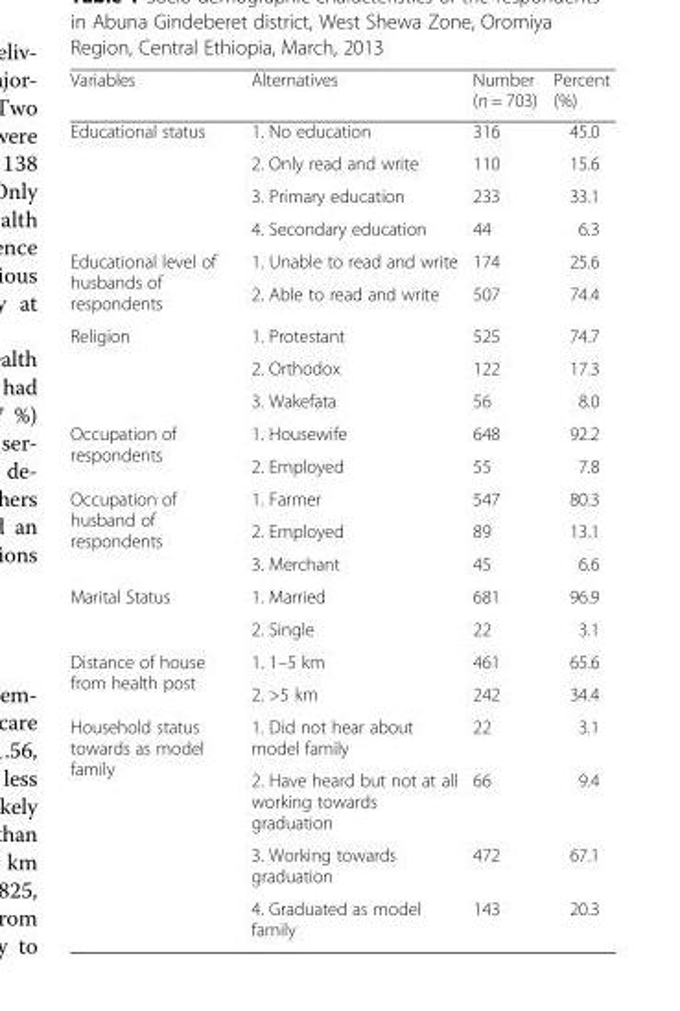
<table><thead><tr><td>Variables</td><td>Alternatives</td><td>Number (n = 703)</td><td>Percent (%)</td></tr></thead><tbody><tr><td rowspan="4">Educational status</td><td>1. No education</td><td>316</td><td>45.0</td></tr><tr><td>2. Only read and write</td><td>110</td><td>15.6</td></tr><tr><td>3. Primary education</td><td>233</td><td>33.1</td></tr><tr><td>4. Secondary education</td><td>44</td><td>6.3</td></tr><tr><td rowspan="2">Educational level of husbands of respondents</td><td>1. Unable to read and write</td><td>174</td><td>25.6</td></tr><tr><td>2. Able to read and write</td><td>507</td><td>74.4</td></tr><tr><td rowspan="3">Religion</td><td>1. Protestant</td><td>525</td><td>74.7</td></tr><tr><td>2. Orthodox</td><td>122</td><td>17.3</td></tr><tr><td>3. Wakefata</td><td>56</td><td>8.0</td></tr><tr><td rowspan="2">Occupation of respondents</td><td>1. Housewife</td><td>648</td><td>92.2</td></tr><tr><td>2. Employed</td><td>55</td><td>7.8</td></tr><tr><td rowspan="3">Occupation of husband of respondents</td><td>1. Farmer</td><td>547</td><td>80.3</td></tr><tr><td>2. Employed</td><td>89</td><td>13.1</td></tr><tr><td>3. Merchant</td><td>45</td><td>6.6</td></tr><tr><td rowspan="2">Marital Status</td><td>1. Married</td><td>681</td><td>96.9</td></tr><tr><td>2. Single</td><td>22</td><td>3.1</td></tr><tr><td rowspan="2">Distance of house from health post</td><td>1. 1–5 km</td><td>461</td><td>65.6</td></tr><tr><td>2. &gt;5 km</td><td>242</td><td>34.4</td></tr><tr><td rowspan="4">Household status towards as model family</td><td>1. Did not hear about model family</td><td>22</td><td>3.1</td></tr><tr><td>2. Have heard but not at all working towards graduation</td><td>66</td><td>9.4</td></tr><tr><td>3. Working towards graduation</td><td>472</td><td>67.1</td></tr><tr><td>4. Graduated as model family</td><td>143</td><td>20.3</td></tr></tbody></table>